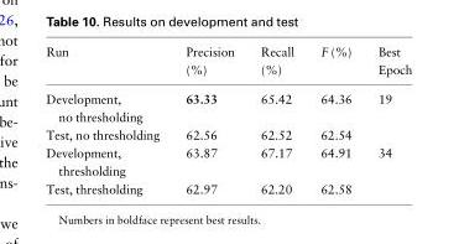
<table><thead><tr><td>Run</td><td>Precision (%)</td><td>Recall (%)</td><td>F (%)</td><td>Best Epoch</td></tr></thead><tbody><tr><td>Development, no thresholding</td><td>63.33</td><td>65.42</td><td>64.36</td><td rowspan="2">19</td></tr><tr><td>Test, no thresholding</td><td>62.56</td><td>62.52</td><td>62.54</td></tr><tr><td>Development, thresholding</td><td>63.87</td><td>67.17</td><td>64.91</td><td rowspan="2">34</td></tr><tr><td>Test, thresholding</td><td>62.97</td><td>62.20</td><td>62.58</td></tr></tbody></table>